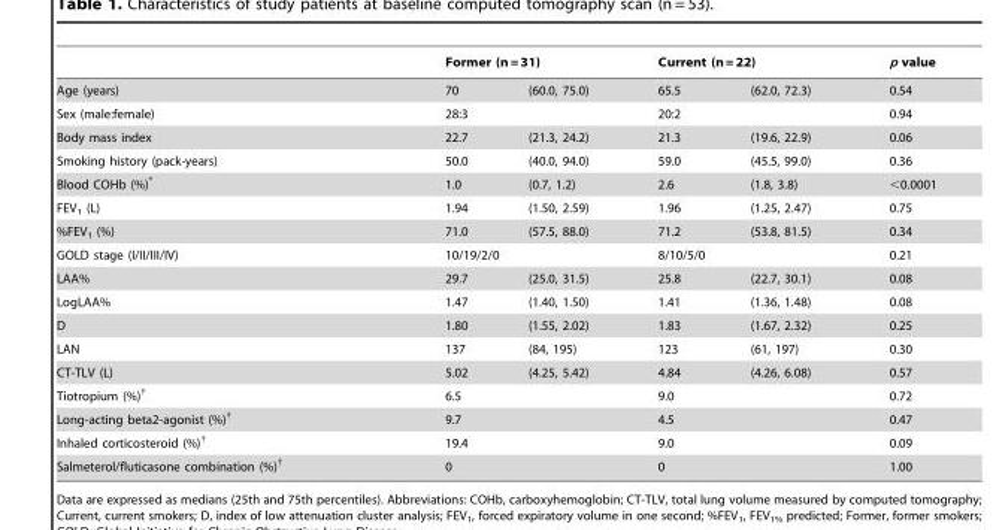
<table><thead><tr><td rowspan="2">Age (years)</td><td colspan="2">Former (n = 31)</td><td colspan="2">Current (n = 22)</td><td rowspan="2">p value 0.54</td></tr><tr><td>70</td><td>(60.0, 75.0)</td><td>65.5</td><td>(62.0, 72.3)</td></tr></thead><tbody><tr><td>Sex (male:female)</td><td colspan="2">28:3</td><td colspan="2">20:2</td><td>0.94</td></tr><tr><td>Body mass index</td><td>22.7</td><td>(21.3, 24.2)</td><td>21.3</td><td>(19.6, 22.9)</td><td>0.06</td></tr><tr><td>Smoking history (pack-years)</td><td>50.0</td><td>(40.0, 94.0)</td><td>59.0</td><td>(45.5, 99.0)</td><td>0.36</td></tr><tr><td>Blood COHb (%)*</td><td>1.0</td><td>(0.7, 1.2)</td><td>2.6</td><td>(1.8, 3.8)</td><td>&lt;0.0001</td></tr><tr><td>FEV<sub>1</sub> (L)</td><td>1.94</td><td>(1.50, 2.59)</td><td>1.96</td><td>(1.25, 2.47)</td><td>0.75</td></tr><tr><td>%FEV<sub>1</sub> (%)</td><td>71.0</td><td>(57.5, 88.0)</td><td>71.2</td><td>(53.8, 81.5)</td><td>0.34</td></tr><tr><td>GOLD stage (I/II/III/IV)</td><td colspan="2">10/19/2/0</td><td colspan="2">8/10/5/0</td><td>0.21</td></tr><tr><td>LAA%</td><td>29.7</td><td>(25.0, 31.5)</td><td>25.8</td><td>(22.7, 30.1)</td><td>0.08</td></tr><tr><td>LogLAA%</td><td>1.47</td><td>(1.40, 1.50)</td><td>1.41</td><td>(1.36, 1.48)</td><td>0.08</td></tr><tr><td>D</td><td>1.80</td><td>(1.55, 2.02)</td><td>1.83</td><td>(1.67, 2.32)</td><td>0.25</td></tr><tr><td>LAN</td><td>137</td><td>(84, 195)</td><td>123</td><td>(61, 197)</td><td>0.30</td></tr><tr><td>CT-TLV (L)</td><td>5.02</td><td>(4.25, 5.42)</td><td>4.84</td><td>(4.26, 6.08)</td><td>0.57</td></tr><tr><td>Tiotropium (%)†</td><td colspan="2">6.5</td><td colspan="2">9.0</td><td>0.72</td></tr><tr><td>Long-acting beta2-agonist (%)†</td><td colspan="2">9.7</td><td colspan="2">4.5</td><td>0.47</td></tr><tr><td>Inhaled corticosteroid (%)†</td><td colspan="2">19.4</td><td colspan="2">9.0</td><td>0.09</td></tr><tr><td>Salmeterol/fluticasone combination (%)†</td><td colspan="2">0</td><td colspan="2">0</td><td>1.00</td></tr></tbody></table>